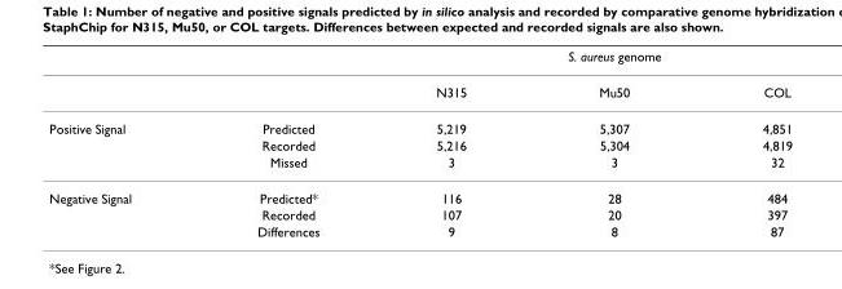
<table><thead><tr><td rowspan="2"></td><td rowspan="2"></td><td colspan="3">S. aureus genome</td></tr><tr><td>N315</td><td>Mu50</td><td>COL</td></tr></thead><tbody><tr><td rowspan="3">Positive Signal</td><td>Predicted</td><td>5,219</td><td>5,307</td><td>4,851</td></tr><tr><td>Recorded</td><td>5,216</td><td>5,304</td><td>4,819</td></tr><tr><td>Missed</td><td>3</td><td>3</td><td>32</td></tr><tr><td rowspan="3">Negative Signal</td><td>Predicted*</td><td>116</td><td>28</td><td>484</td></tr><tr><td>Recorded</td><td>107</td><td>20</td><td>397</td></tr><tr><td>Differences</td><td>9</td><td>8</td><td>87</td></tr></tbody></table>